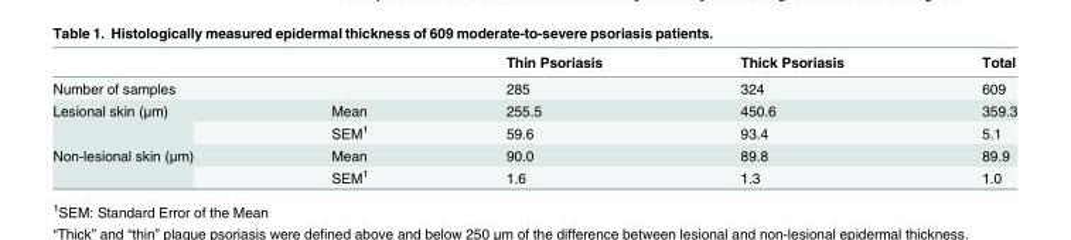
<table><thead><tr><td></td><td></td><td>Thin Psoriasis</td><td>Thick Psoriasis</td><td>Total</td></tr></thead><tbody><tr><td colspan="2">Number of samples</td><td>285</td><td>324</td><td>609</td></tr><tr><td rowspan="2">Lesional skin (μm)</td><td>Mean</td><td>255.5</td><td>450.6</td><td>359.3</td></tr><tr><td>SEM<sup>1</sup></td><td>59.6</td><td>93.4</td><td>5.1</td></tr><tr><td rowspan="2">Non-lesional skin (μm)</td><td>Mean</td><td>90.0</td><td>89.8</td><td>89.9</td></tr><tr><td>SEM<sup>1</sup></td><td>1.6</td><td>1.3</td><td>1.0</td></tr></tbody></table>